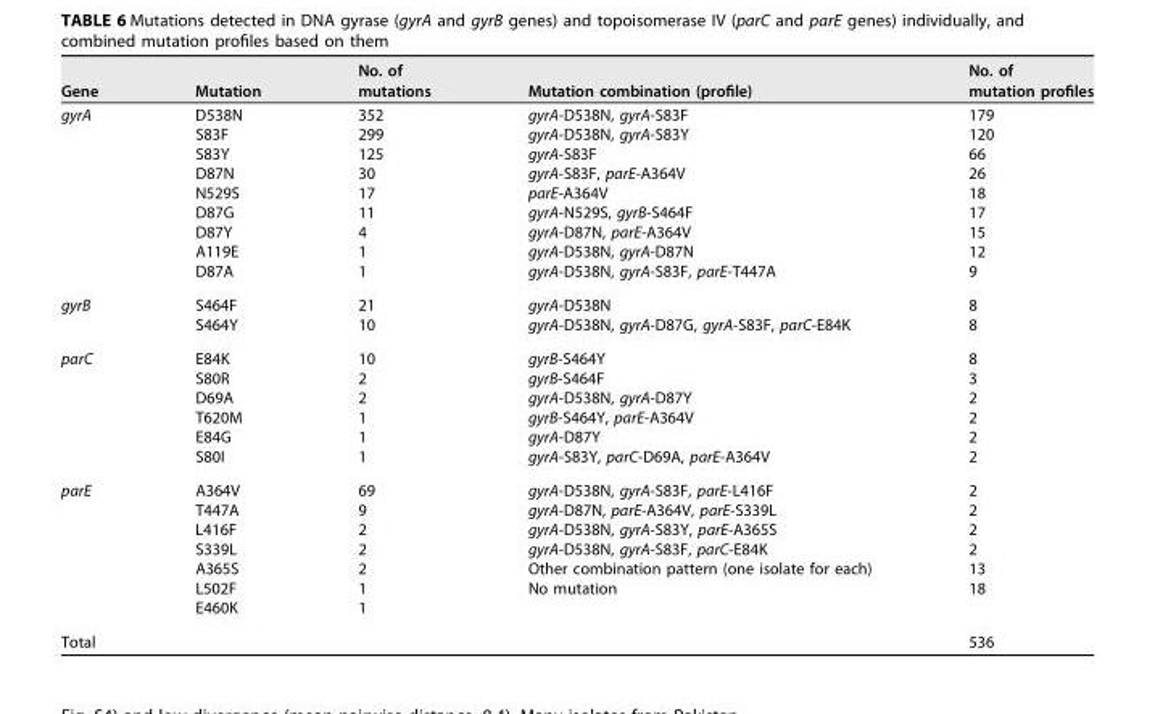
<table><thead><tr><td>Gene</td><td>Mutation</td><td>No. of mutations</td><td>Mutation combination (profile)</td><td>No. of mutation profiles</td></tr></thead><tbody><tr><td rowspan="9">gyrA</td><td>D538N</td><td>352</td><td>gyrA-D538N, gyrA-S83F</td><td>179</td></tr><tr><td>S83F</td><td>299</td><td>gyrA-D538N, gyrA-S83Y</td><td>120</td></tr><tr><td>S83Y</td><td>125</td><td>gyrA-S83F</td><td>66</td></tr><tr><td>D87N</td><td>30</td><td>gyrA-S83F, parE-A364V</td><td>26</td></tr><tr><td>N529S</td><td>17</td><td>parE-A364V</td><td>18</td></tr><tr><td>D87G</td><td>11</td><td>gyrA-N529S, gyrB-S464F</td><td>17</td></tr><tr><td>D87Y</td><td>4</td><td>gyrA-D87N, parE-A364V</td><td>15</td></tr><tr><td>A119E</td><td>1</td><td>gyrA-D538N, gyrA-D87N</td><td>12</td></tr><tr><td>D87A</td><td>1</td><td>gyrA-D538N, gyrA-S83F, parE-T447A</td><td>9</td></tr><tr><td rowspan="2">gyrB</td><td>S464F</td><td>21</td><td>gyrA-D538N</td><td>8</td></tr><tr><td>S464Y</td><td>10</td><td>gyrA-D538N, gyrA-D87G, gyrA-S83F, parC-E84K</td><td>8</td></tr><tr><td rowspan="6">parC</td><td>E84K</td><td>10</td><td>gyrB-S464Y</td><td>8</td></tr><tr><td>S80R</td><td>2</td><td>gyrB-S464F</td><td>3</td></tr><tr><td>D69A</td><td>2</td><td>gyrA-D538N, gyrA-D87Y</td><td>2</td></tr><tr><td>T620M</td><td>1</td><td>gyrB-S464Y, parE-A364V</td><td>2</td></tr><tr><td>E84G</td><td>1</td><td>gyrA-D87Y</td><td>2</td></tr><tr><td>S80I</td><td>1</td><td>gyrA-S83Y, parC-D69A, parE-A364V</td><td>2</td></tr><tr><td rowspan="7">parE</td><td>A364V</td><td>69</td><td>gyrA-D538N, gyrA-S83F, parE-L416F</td><td>2</td></tr><tr><td>T447A</td><td>9</td><td>gyrA-D87N, parE-A364V, parE-S339L</td><td>2</td></tr><tr><td>L416F</td><td>2</td><td>gyrA-D538N, gyrA-S83Y, parE-A365S</td><td>2</td></tr><tr><td>S339L</td><td>2</td><td>gyrA-D538N, gyrA-S83F, parC-E84K</td><td>2</td></tr><tr><td>A365S</td><td>2</td><td>Other combination pattern (one isolate for each)</td><td>13</td></tr><tr><td>L502F</td><td>1</td><td>No mutation</td><td>18</td></tr><tr><td>E460K</td><td>1</td><td></td><td></td></tr><tr><td>Total</td><td></td><td></td><td></td><td>536</td></tr></tbody></table>